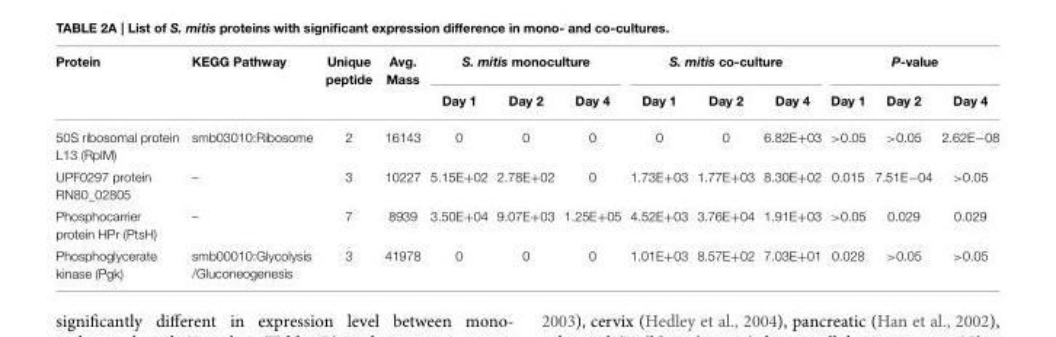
<table><thead><tr><td rowspan="2">Protein</td><td rowspan="2">KEGG Pathway</td><td rowspan="2">Unique peptide</td><td rowspan="2">Avg. Mass</td><td colspan="3">S. mitis monoculture</td><td colspan="3">S. mitis co-culture</td><td colspan="3">P-value</td></tr><tr><td>Day 1</td><td>Day 2</td><td>Day 4</td><td>Day 1</td><td>Day 2</td><td>Day 4</td><td>Day 1</td><td>Day 2</td><td>Day 4</td></tr></thead><tbody><tr><td>50S ribosomal protein L13 (RplM)</td><td>smb03010:Ribosome</td><td>2</td><td>16143</td><td>0</td><td>0</td><td>0</td><td>0</td><td>0</td><td>6.82E+03</td><td>&gt;0.05</td><td>&gt;0.05</td><td>2.62E−08</td></tr><tr><td>UPF0297 protein RN80_02805</td><td>–</td><td>3</td><td>10227</td><td>5.15E+02</td><td>2.78E+02</td><td>0</td><td>1.73E+03</td><td>1.77E+03</td><td>8.30E+02</td><td>0.015</td><td>7.51E−04</td><td>&gt;0.05</td></tr><tr><td>Phosphocarrier protein HPr (PtsH)</td><td>–</td><td>7</td><td>8939</td><td>3.50E+04</td><td>9.07E+03</td><td>1.25E+05</td><td>4.52E+03</td><td>3.76E+04</td><td>1.91E+03</td><td>&gt;0.05</td><td>0.029</td><td>0.029</td></tr><tr><td>Phosphoglycerate kinase (Pgk)</td><td>smb00010:Glycolysis /Gluconeogenesis</td><td>3</td><td>41978</td><td>0</td><td>0</td><td>0</td><td>1.01E+03</td><td>8.57E+02</td><td>7.03E+01</td><td>0.028</td><td>&gt;0.05</td><td>&gt;0.05</td></tr></tbody></table>